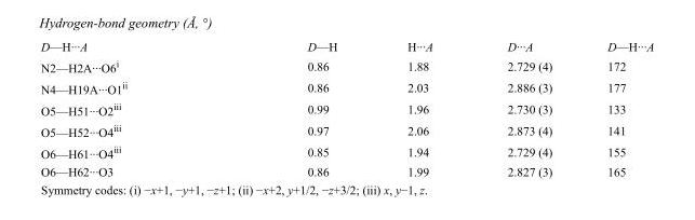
<table><tbody><tr><td>D—H···A</td><td>D—H</td><td>H···A</td><td>D···A</td><td>D—H···A</td></tr><tr><td>N2—H2A···O6<sup>i</sup></td><td>0.86</td><td>1.88</td><td>2.729 (4)</td><td>172</td></tr><tr><td>N4—H19A···O1<sup>ii</sup></td><td>0.86</td><td>2.03</td><td>2.886 (3)</td><td>177</td></tr><tr><td>O5—H51···O2<sup>iii</sup></td><td>0.99</td><td>1.96</td><td>2.730 (3)</td><td>133</td></tr><tr><td>O5—H52···O4<sup>iii</sup></td><td>0.97</td><td>2.06</td><td>2.873 (4)</td><td>141</td></tr><tr><td>O6—H61···O4<sup>iii</sup></td><td>0.85</td><td>1.94</td><td>2.729 (4)</td><td>155</td></tr><tr><td>O6—H62···O3</td><td>0.86</td><td>1.99</td><td>2.827 (3)</td><td>165</td></tr></tbody></table>